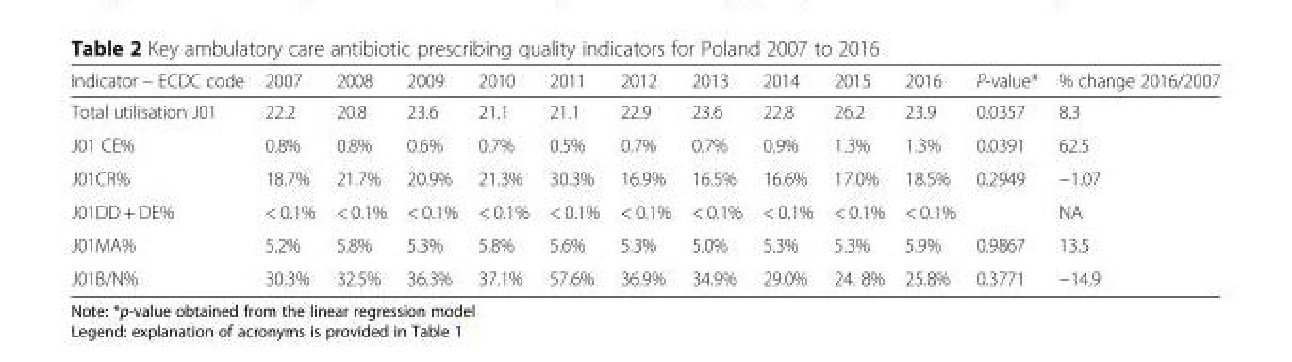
<table><thead><tr><td>Indicator – ECDC code</td><td>2007</td><td>2008</td><td>2009</td><td>2010</td><td>2011</td><td>2012</td><td>2013</td><td>2014</td><td>2015</td><td>2016</td><td>P-value*</td><td>% change 2016/2007</td></tr></thead><tbody><tr><td>Total utilisation J01</td><td>22.2</td><td>20.8</td><td>23.6</td><td>21.1</td><td>21.1</td><td>22.9</td><td>23.6</td><td>22.8</td><td>26.2</td><td>23.9</td><td>0.0357</td><td>8.3</td></tr><tr><td>J01 CE%</td><td>0.8%</td><td>0.8%</td><td>0.6%</td><td>0.7%</td><td>0.5%</td><td>0.7%</td><td>0.7%</td><td>0.9%</td><td>1.3%</td><td>1.3%</td><td>0.0391</td><td>62.5</td></tr><tr><td>J01CR%</td><td>18.7%</td><td>21.7%</td><td>20.9%</td><td>21.3%</td><td>30.3%</td><td>16.9%</td><td>16.5%</td><td>16.6%</td><td>17.0%</td><td>18.5%</td><td>0.2949</td><td>−1.07</td></tr><tr><td>J01DD + DE%</td><td>&lt; 0.1%</td><td>&lt; 0.1%</td><td>&lt; 0.1%</td><td>&lt; 0.1%</td><td>&lt; 0.1%</td><td>&lt; 0.1%</td><td>&lt; 0.1%</td><td>&lt; 0.1%</td><td>&lt; 0.1%</td><td>&lt; 0.1%</td><td></td><td>NA</td></tr><tr><td>J01MA%</td><td>5.2%</td><td>5.8%</td><td>5.3%</td><td>5.8%</td><td>5.6%</td><td>5.3%</td><td>5.0%</td><td>5.3%</td><td>5.3%</td><td>5.9%</td><td>0.9867</td><td>13.5</td></tr><tr><td>J01B/N%</td><td>30.3%</td><td>32.5%</td><td>36.3%</td><td>37.1%</td><td>57.6%</td><td>36.9%</td><td>34.9%</td><td>29.0%</td><td>24. 8%</td><td>25.8%</td><td>0.3771</td><td>−14.9</td></tr></tbody></table>